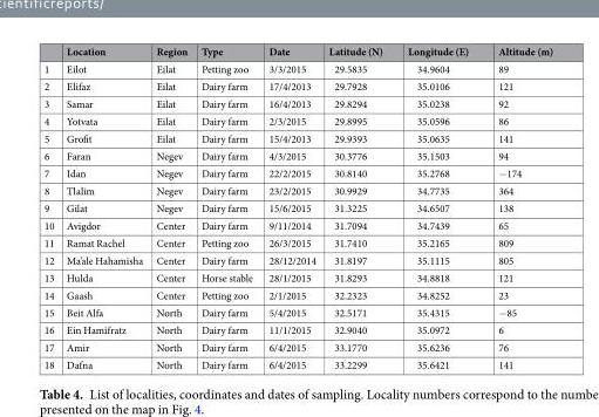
<table><thead><tr><td></td><td>Location</td><td>Region</td><td>Type</td><td>Date</td><td>Latitude (N)</td><td>Longitude (E)</td><td>Altitude (m)</td></tr></thead><tbody><tr><td>1</td><td>Eilot</td><td>Eilat</td><td>Petting zoo</td><td>3/3/2015</td><td>29.5835</td><td>34.9604</td><td>89</td></tr><tr><td>2</td><td>Elifaz</td><td>Eilat</td><td>Dairy farm</td><td>17/4/2013</td><td>29.7928</td><td>35.0106</td><td>121</td></tr><tr><td>3</td><td>Samar</td><td>Eilat</td><td>Dairy farm</td><td>16/4/2013</td><td>29.8294</td><td>35.0238</td><td>92</td></tr><tr><td>4</td><td>Yotvata</td><td>Eilat</td><td>Dairy farm</td><td>2/3/2015</td><td>29.8995</td><td>35.0596</td><td>86</td></tr><tr><td>5</td><td>Grofit</td><td>Eilat</td><td>Dairy farm</td><td>15/4/2013</td><td>29.9393</td><td>35.0635</td><td>141</td></tr><tr><td>6</td><td>Faran</td><td>Negev</td><td>Dairy farm</td><td>4/3/2015</td><td>30.3776</td><td>35.1503</td><td>94</td></tr><tr><td>7</td><td>Idan</td><td>Negev</td><td>Dairy farm</td><td>22/2/2015</td><td>30.8140</td><td>35.2768</td><td>−174</td></tr><tr><td>8</td><td>Tlalim</td><td>Negev</td><td>Dairy farm</td><td>23/2/2015</td><td>30.9929</td><td>34.7735</td><td>364</td></tr><tr><td>9</td><td>Gilat</td><td>Negev</td><td>Dairy farm</td><td>15/6/2015</td><td>31.3225</td><td>34.6507</td><td>138</td></tr><tr><td>10</td><td>Avigdor</td><td>Center</td><td>Dairy farm</td><td>9/11/2014</td><td>31.7094</td><td>34.7439</td><td>65</td></tr><tr><td>11</td><td>Ramat Rachel</td><td>Center</td><td>Petting zoo</td><td>26/3/2015</td><td>31.7410</td><td>35.2165</td><td>809</td></tr><tr><td>12</td><td>Ma’ale Hahamisha</td><td>Center</td><td>Dairy farm</td><td>28/12/2014</td><td>31.8197</td><td>35.1115</td><td>805</td></tr><tr><td>13</td><td>Hulda</td><td>Center</td><td>Horse stable</td><td>28/1/2015</td><td>31.8293</td><td>34.8818</td><td>121</td></tr><tr><td>14</td><td>Gaash</td><td>Center</td><td>Petting zoo</td><td>2/1/2015</td><td>32.2323</td><td>34.8252</td><td>23</td></tr><tr><td>15</td><td>Beit Alfa</td><td>North</td><td>Dairy farm</td><td>5/4/2015</td><td>32.5171</td><td>35.4315</td><td>−85</td></tr><tr><td>16</td><td>Ein Hamifratz</td><td>North</td><td>Dairy farm</td><td>11/1/2015</td><td>32.9040</td><td>35.0972</td><td>6</td></tr><tr><td>17</td><td>Amir</td><td>North</td><td>Dairy farm</td><td>6/4/2015</td><td>33.1770</td><td>35.6236</td><td>76</td></tr><tr><td>18</td><td>Dafna</td><td>North</td><td>Dairy farm</td><td>6/4/2015</td><td>33.2299</td><td>35.6421</td><td>141</td></tr></tbody></table>